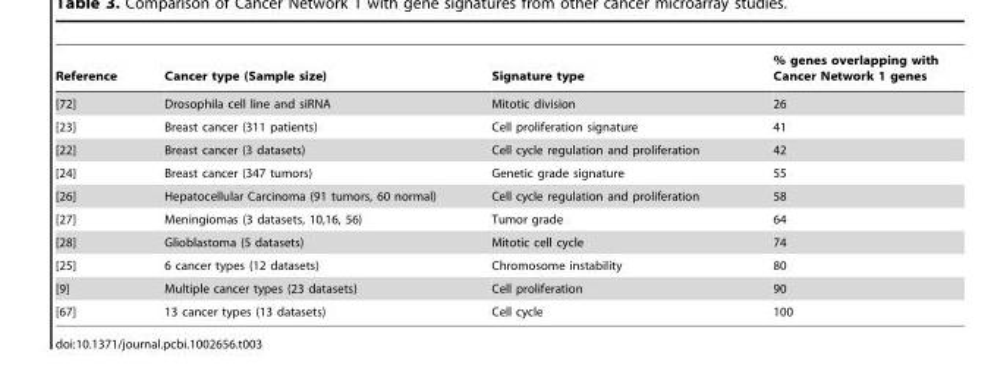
<table><thead><tr><td>Reference</td><td>Cancer type (Sample size)</td><td>Signature type</td><td>% genes overlapping with Cancer Network 1 genes</td></tr></thead><tbody><tr><td>[72]</td><td>Drosophila cell line and siRNA</td><td>Mitotic division</td><td>26</td></tr><tr><td>[23]</td><td>Breast cancer (311 patients)</td><td>Cell proliferation signature</td><td>41</td></tr><tr><td>[22]</td><td>Breast cancer (3 datasets)</td><td>Cell cycle regulation and proliferation</td><td>42</td></tr><tr><td>[24]</td><td>Breast cancer (347 tumors)</td><td>Genetic grade signature</td><td>55</td></tr><tr><td>[26]</td><td>Hepatocellular Carcinoma (91 tumors, 60 normal)</td><td>Cell cycle regulation and proliferation</td><td>58</td></tr><tr><td>[27]</td><td>Meningiomas (3 datasets, 10,16, 56)</td><td>Tumor grade</td><td>64</td></tr><tr><td>[28]</td><td>Glioblastoma (5 datasets)</td><td>Mitotic cell cycle</td><td>74</td></tr><tr><td>[25]</td><td>6 cancer types (12 datasets)</td><td>Chromosome instability</td><td>80</td></tr><tr><td>[9]</td><td>Multiple cancer types (23 datasets)</td><td>Cell proliferation</td><td>90</td></tr><tr><td>[67]</td><td>13 cancer types (13 datasets)</td><td>Cell cycle</td><td>100</td></tr></tbody></table>